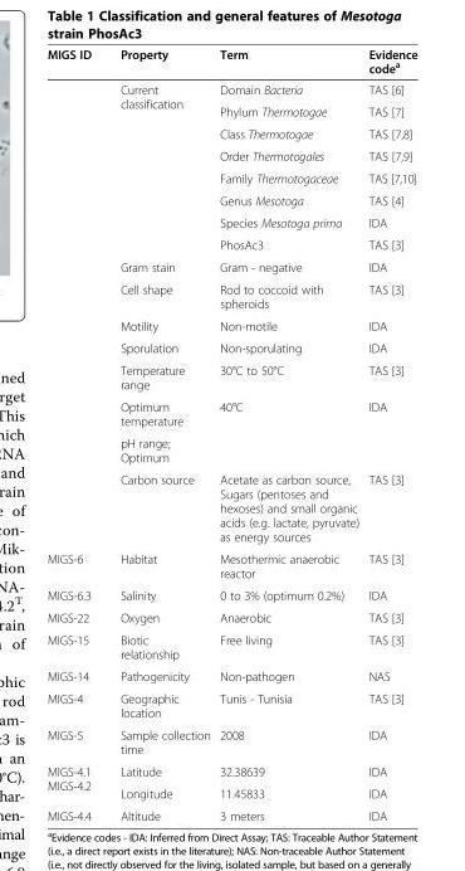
<table><thead><tr><td>MIGS ID</td><td>Property</td><td>Term</td><td>Evidence code<sup>a</sup></td></tr></thead><tbody><tr><td rowspan="8"></td><td rowspan="8">Current classification</td><td>Domain Bacteria</td><td>TAS [6]</td></tr><tr><td>Phylum Thermotogae</td><td>TAS [7]</td></tr><tr><td>Class Thermotogae</td><td>TAS [7,8]</td></tr><tr><td>Order Thermotogales</td><td>TAS [7,9]</td></tr><tr><td>Family Thermotogaceae</td><td>TAS [7,10]</td></tr><tr><td>Genus Mesotoga</td><td>TAS [4]</td></tr><tr><td>Species Mesotoga prima</td><td>IDA</td></tr><tr><td>PhosAc3</td><td>TAS [3]</td></tr><tr><td></td><td>Gram stain</td><td>Gram - negative</td><td>IDA</td></tr><tr><td></td><td>Cell shape</td><td>Rod to coccoid with spheroids</td><td>TAS [3]</td></tr><tr><td></td><td>Motility</td><td>Non-motile</td><td>IDA</td></tr><tr><td></td><td>Sporulation</td><td>Non-sporulating</td><td>IDA</td></tr><tr><td></td><td>Temperature range</td><td>30°C to 50°C</td><td>TAS [3]</td></tr><tr><td></td><td>Optimum temperature</td><td>40°C</td><td>IDA</td></tr><tr><td></td><td>pH range; Optimum</td><td></td><td></td></tr><tr><td></td><td>Carbon source</td><td>Acetate as carbon source, Sugars (pentoses and hexoses) and small organic acids (e.g. lactate, pyruvate) as energy sources</td><td>TAS [3]</td></tr><tr><td>MIGS-6</td><td>Habitat</td><td>Mesothermic anaerobic reactor</td><td>TAS [3]</td></tr><tr><td>MIGS-6.3</td><td>Salinity</td><td>0 to 3% (optimum 0.2%)</td><td>IDA</td></tr><tr><td>MIGS-22</td><td>Oxygen</td><td>Anaerobic</td><td>TAS [3]</td></tr><tr><td>MIGS-15</td><td>Biotic relationship</td><td>Free living</td><td>TAS [3]</td></tr><tr><td>MIGS-14</td><td>Pathogenicity</td><td>Non-pathogen</td><td>NAS</td></tr><tr><td>MIGS-4</td><td>Geographic location</td><td>Tunis - Tunisia</td><td>TAS [3]</td></tr><tr><td>MIGS-5</td><td>Sample collection time</td><td>2008</td><td>IDA</td></tr><tr><td rowspan="2">MIGS-4.1 MIGS-4.2</td><td>Latitude</td><td>32.38639</td><td>IDA</td></tr><tr><td>Longitude</td><td>11.45833</td><td>IDA</td></tr><tr><td>MIGS-4.4</td><td>Altitude</td><td>3 meters</td><td>IDA</td></tr></tbody></table>